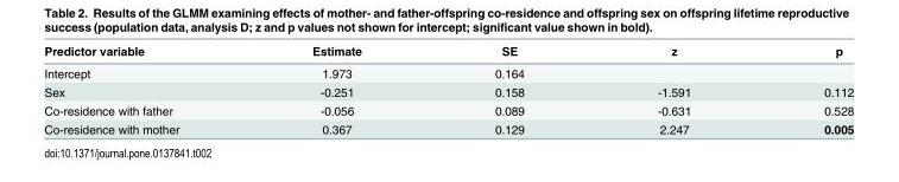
<table><thead><tr><td>Predictor variable</td><td>Estimate</td><td>SE</td><td>z</td><td>p</td></tr></thead><tbody><tr><td>Intercept</td><td>1.973</td><td>0.164</td><td></td><td></td></tr><tr><td>Sex</td><td>-0.251</td><td>0.158</td><td>-1.591</td><td>0.112</td></tr><tr><td>Co-residence with father</td><td>-0.056</td><td>0.089</td><td>-0.631</td><td>0.528</td></tr><tr><td>Co-residence with mother</td><td>0.367</td><td>0.129</td><td>2.247</td><td>0.005</td></tr></tbody></table>